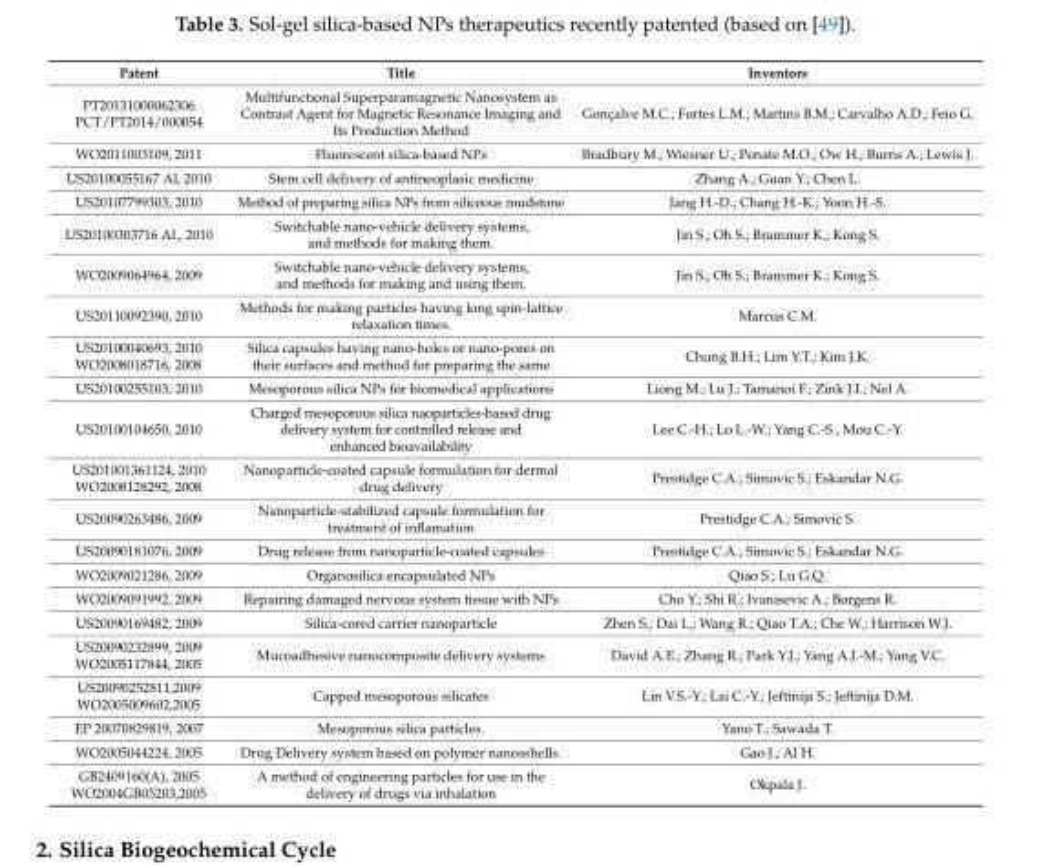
<table><thead><tr><td>Patent</td><td>Title</td><td>Inventors</td></tr></thead><tbody><tr><td>PT20131000062306 PCT/PT2014/000054</td><td>Multifunctional Superparamagnetic Nanosystem as Contrast Agent for Magnetic Resonance Imaging and Its Production Method</td><td>Gonçalve M.C.; Fortes L.M.; Martins B.M.; Carvalho A.D.; Feio G.</td></tr><tr><td>WO2011003109, 2011</td><td>Fluorescent silica-based NPs</td><td>Bradbury M.; Wiesner U.; Penate M.O.; Ow H.; Burns A.; Lewis J.</td></tr><tr><td>US20100055167 Al, 2010</td><td>Stem cell delivery of antineoplasic medicine</td><td>Zhang A.; Guan Y.; Chen L.</td></tr><tr><td>US20107799303, 2010</td><td>Method of preparing silica NPs from siliceous mudstone</td><td>Jang H.-D.; Chang H.-K.; Yoon H.-S.</td></tr><tr><td>US20100303716 Al., 2010</td><td>Switchable nano-vehicle delivery systems, and methods for making them.</td><td>Jin S.; Oh S.; Brammer K.; Kong S.</td></tr><tr><td>WO2009064964, 2009</td><td>Switchable nano-vehicle delivery systems, and methods for making and using them.</td><td>Jin S.; Oh S.; Brammer K.; Kong S.</td></tr><tr><td>US20110092390, 2010</td><td>Methods for making particles having long spin-lattice relaxation times.</td><td>Marcus C.M.</td></tr><tr><td>US20100040693, 2010 WO2008018716, 2008</td><td>Silica capsules having nano-holes or nano-pores on their surfaces and method for preparing the same</td><td>Chung B.H.; Lim Y.T.; Kim J.K.</td></tr><tr><td>US20100255103, 2010</td><td>Mesoporous silica NPs for biomedical applications</td><td>Liong M.; Lu J.; Tamanoi F.; Zink J.I.; Nel A.</td></tr><tr><td>US20100104650, 2010</td><td>Charged mesoporous silica naoparticles-based drug delivery system for controlled release and enhanced bioavailability</td><td>Lee C.-H.; Lo L.-W.; Yang C.-S., Mou C.-Y.</td></tr><tr><td>US201001361124, 2010 WO2008128292, 2008</td><td>Nanoparticle-coated capsule formulation for dermal drug delivery</td><td>Prestidge C.A.; Simovic S.; Eskandar N.G.</td></tr><tr><td>US20090263486, 2009</td><td>Nanoparticle-stabilized capsule formulation for treatment of inflamation</td><td>Prestidge C.A.; Simovic S.</td></tr><tr><td>US20090181076, 2009</td><td>Drug release from nanoparticle-coated capsules</td><td>Prestidge C.A.; Simovic S.; Eskandar N.G.</td></tr><tr><td>WO2009021286, 2009</td><td>Organosilica encapsulated NPs</td><td>Qiao S.; Lu G.Q.</td></tr><tr><td>WO2009091992, 2009</td><td>Repairing damaged nervous system tissue with NPs</td><td>Cho Y.; Shi R.; Ivanisevic A.; Borgens R.</td></tr><tr><td>US20090169482, 2009</td><td>Silica-cored carrier nanoparticle</td><td>Zhen S.; Dai L.; Wang R.; Qiao T.A.; Che W.; Harrison W.J.</td></tr><tr><td>US20090232899, 2009 WO2005117844, 2005</td><td>Mucoadhesive nanocomposite delivery systems</td><td>David A.E.; Zhang R.; Park Y.J.; Yang A.J.-M.; Yang V.C.</td></tr><tr><td>US20090252811,2009 WO2005009602,2005</td><td>Capped mesoporous silicates</td><td>Lin V.S.-Y.; Lai C.-Y.; Jeftinija S.; Jeftinija D.M.</td></tr><tr><td>EP 20070829819, 2007</td><td>Mesoporous silica particles.</td><td>Yano T.; Sawada T.</td></tr><tr><td>WO2005044224, 2005</td><td>Drug Delivery system based on polymer nanosshells.</td><td>Gao J.; Al H.</td></tr><tr><td>GB2409160(A), 2005 WO2004GB05203,2005</td><td>A method of engineering particles for use in the delivery of drugs via inhalation</td><td>Okpala J.</td></tr></tbody></table>